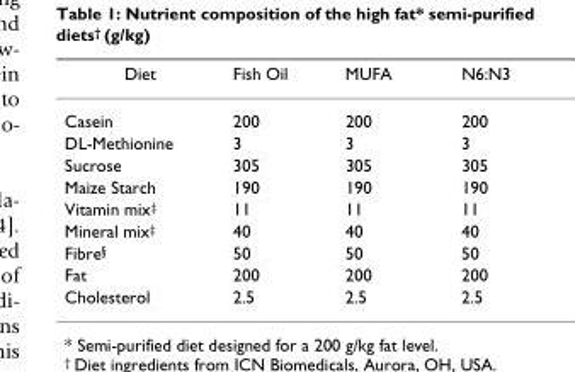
<table><thead><tr><td>Diet</td><td>Fish Oil</td><td>MUFA</td><td>N6:N3</td></tr></thead><tbody><tr><td>Casein</td><td>200</td><td>200</td><td>200</td></tr><tr><td>DL-Methionine</td><td>3</td><td>3</td><td>3</td></tr><tr><td>Sucrose</td><td>305</td><td>305</td><td>305</td></tr><tr><td>Maize Starch</td><td>190</td><td>190</td><td>190</td></tr><tr><td>Vitamin mix<sup>‡</sup></td><td>11</td><td>11</td><td>11</td></tr><tr><td>Mineral mix<sup>‡</sup></td><td>40</td><td>40</td><td>40</td></tr><tr><td>Fibre<sup>§</sup></td><td>50</td><td>50</td><td>50</td></tr><tr><td>Fat</td><td>200</td><td>200</td><td>200</td></tr><tr><td>Cholesterol</td><td>2.5</td><td>2.5</td><td>2.5</td></tr></tbody></table>